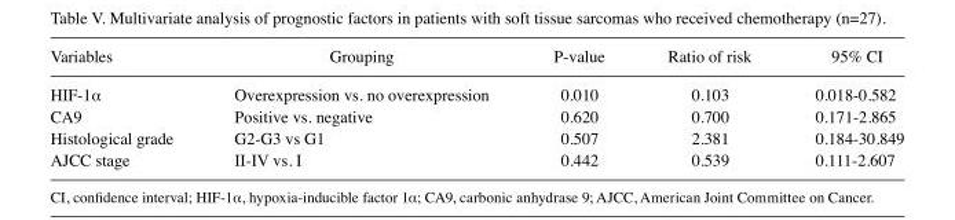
<table><thead><tr><td>Variables</td><td>Grouping</td><td>P‑value</td><td>Ratio of risk</td><td>95% CI</td></tr></thead><tbody><tr><td>HIF-1α</td><td>Overexpression vs. no overexpression</td><td>0.010</td><td>0.103</td><td>0.018‑0.582</td></tr><tr><td>CA9</td><td>Positive vs. negative</td><td>0.620</td><td>0.700</td><td>0.171‑2.865</td></tr><tr><td>Histological grade</td><td>G2‑G3 vs G1</td><td>0.507</td><td>2.381</td><td>0.184‑30.849</td></tr><tr><td>AJCC stage</td><td>II‑IV vs. I</td><td>0.442</td><td>0.539</td><td>0.111‑2.607</td></tr></tbody></table>